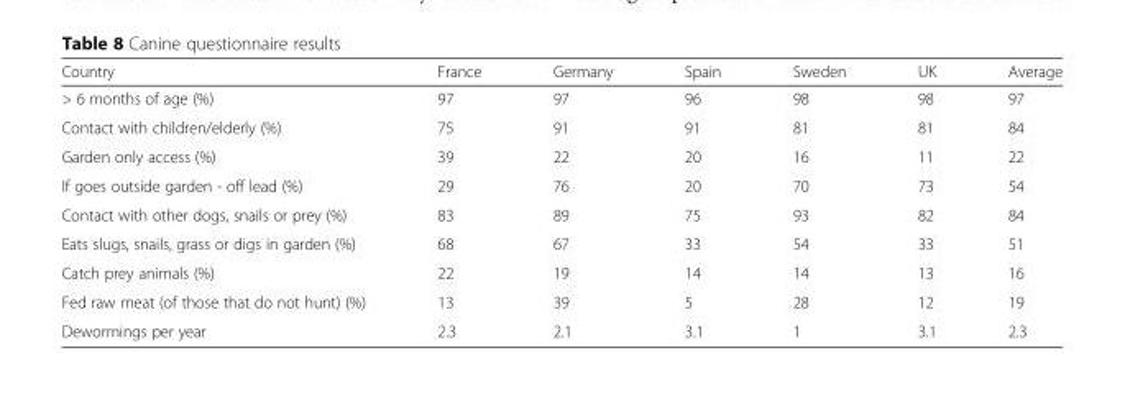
<table><thead><tr><td>Country</td><td>France</td><td>Germany</td><td>Spain</td><td>Sweden</td><td>UK</td><td>Average</td></tr></thead><tbody><tr><td>&gt; 6 months of age (%)</td><td>97</td><td>97</td><td>96</td><td>98</td><td>98</td><td>97</td></tr><tr><td>Contact with children/elderly (%)</td><td>75</td><td>91</td><td>91</td><td>81</td><td>81</td><td>84</td></tr><tr><td>Garden only access (%)</td><td>39</td><td>22</td><td>20</td><td>16</td><td>11</td><td>22</td></tr><tr><td>If goes outside garden - off lead (%)</td><td>29</td><td>76</td><td>20</td><td>70</td><td>73</td><td>54</td></tr><tr><td>Contact with other dogs, snails or prey (%)</td><td>83</td><td>89</td><td>75</td><td>93</td><td>82</td><td>84</td></tr><tr><td>Eats slugs, snails, grass or digs in garden (%)</td><td>68</td><td>67</td><td>33</td><td>54</td><td>33</td><td>51</td></tr><tr><td>Catch prey animals (%)</td><td>22</td><td>19</td><td>14</td><td>14</td><td>13</td><td>16</td></tr><tr><td>Fed raw meat (of those that do not hunt) (%)</td><td>13</td><td>39</td><td>5</td><td>28</td><td>12</td><td>19</td></tr><tr><td>Dewormings per year</td><td>2.3</td><td>2.1</td><td>3.1</td><td>1</td><td>3.1</td><td>2.3</td></tr></tbody></table>